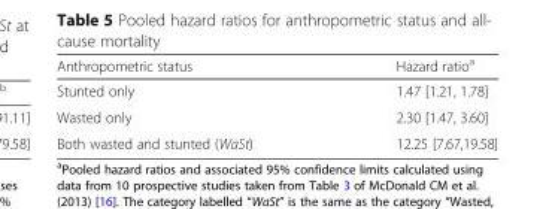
<table><thead><tr><td>Anthropometric status</td><td>Hazard ratio<sup>a</sup></td></tr></thead><tbody><tr><td>Stunted only</td><td>1.47 [1.21, 1.78]</td></tr><tr><td>Wasted only</td><td>2.30 [1.47, 3.60]</td></tr><tr><td>Both wasted and stunted (WaSt)</td><td>12.25 [7.67,19.58]</td></tr></tbody></table>